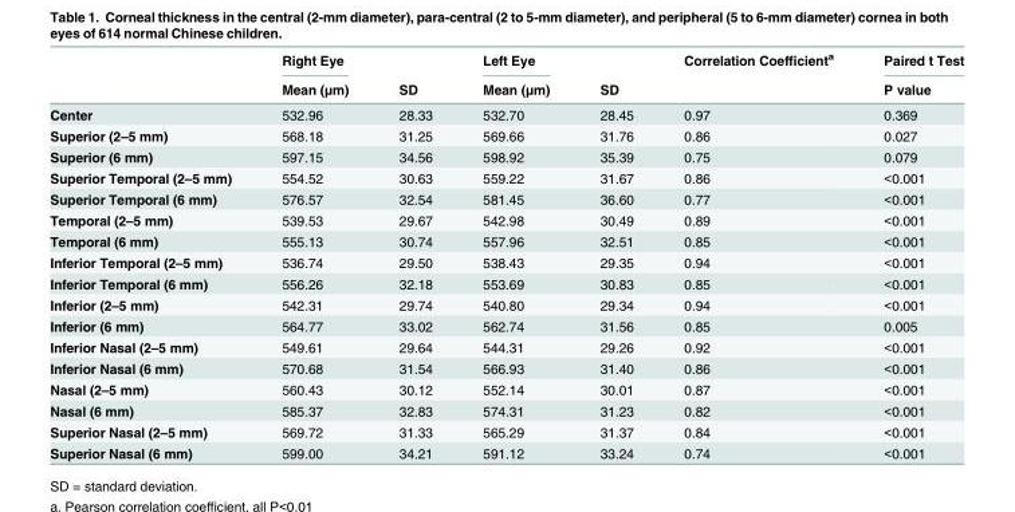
<table><thead><tr><td rowspan="2"></td><td rowspan="2">Right Eye Mean (μm)</td><td rowspan="2">SD</td><td rowspan="2">Left Eye Mean (μm)</td><td rowspan="2">SD</td><td rowspan="2">Correlation Coefficient<sup>a</sup></td><td rowspan="2">Paired t Test P value</td></tr><tr></tr></thead><tbody><tr><td>Center</td><td>532.96</td><td>28.33</td><td>532.70</td><td>28.45</td><td>0.97</td><td>0.369</td></tr><tr><td>Superior (2–5 mm)</td><td>568.18</td><td>31.25</td><td>569.66</td><td>31.76</td><td>0.86</td><td>0.027</td></tr><tr><td>Superior (6 mm)</td><td>597.15</td><td>34.56</td><td>598.92</td><td>35.39</td><td>0.75</td><td>0.079</td></tr><tr><td>Superior Temporal (2–5 mm)</td><td>554.52</td><td>30.63</td><td>559.22</td><td>31.67</td><td>0.86</td><td>&lt;0.001</td></tr><tr><td>Superior Temporal (6 mm)</td><td>576.57</td><td>32.54</td><td>581.45</td><td>36.60</td><td>0.77</td><td>&lt;0.001</td></tr><tr><td>Temporal (2–5 mm)</td><td>539.53</td><td>29.67</td><td>542.98</td><td>30.49</td><td>0.89</td><td>&lt;0.001</td></tr><tr><td>Temporal (6 mm)</td><td>555.13</td><td>30.74</td><td>557.96</td><td>32.51</td><td>0.85</td><td>&lt;0.001</td></tr><tr><td>Inferior Temporal (2–5 mm)</td><td>536.74</td><td>29.50</td><td>538.43</td><td>29.35</td><td>0.94</td><td>&lt;0.001</td></tr><tr><td>Inferior Temporal (6 mm)</td><td>556.26</td><td>32.18</td><td>553.69</td><td>30.83</td><td>0.85</td><td>&lt;0.001</td></tr><tr><td>Inferior (2–5 mm)</td><td>542.31</td><td>29.74</td><td>540.80</td><td>29.34</td><td>0.94</td><td>&lt;0.001</td></tr><tr><td>Inferior (6 mm)</td><td>564.77</td><td>33.02</td><td>562.74</td><td>31.56</td><td>0.85</td><td>0.005</td></tr><tr><td>Inferior Nasal (2–5 mm)</td><td>549.61</td><td>29.64</td><td>544.31</td><td>29.26</td><td>0.92</td><td>&lt;0.001</td></tr><tr><td>Inferior Nasal (6 mm)</td><td>570.68</td><td>31.54</td><td>566.93</td><td>31.40</td><td>0.86</td><td>&lt;0.001</td></tr><tr><td>Nasal (2–5 mm)</td><td>560.43</td><td>30.12</td><td>552.14</td><td>30.01</td><td>0.87</td><td>&lt;0.001</td></tr><tr><td>Nasal (6 mm)</td><td>585.37</td><td>32.83</td><td>574.31</td><td>31.23</td><td>0.82</td><td>&lt;0.001</td></tr><tr><td>Superior Nasal (2–5 mm)</td><td>569.72</td><td>31.33</td><td>565.29</td><td>31.37</td><td>0.84</td><td>&lt;0.001</td></tr><tr><td>Superior Nasal (6 mm)</td><td>599.00</td><td>34.21</td><td>591.12</td><td>33.24</td><td>0.74</td><td>&lt;0.001</td></tr></tbody></table>